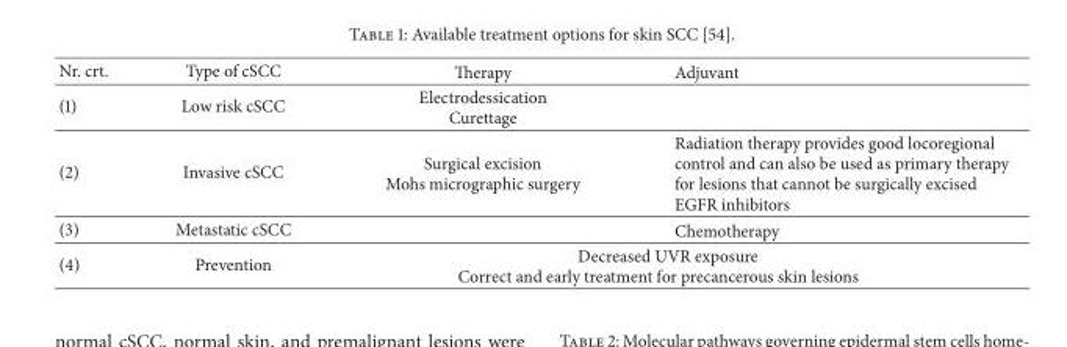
<table><thead><tr><td>Nr. crt.</td><td>Type of cSCC</td><td>Therapy</td><td>Adjuvant</td></tr></thead><tbody><tr><td>(1)</td><td>Low risk cSCC</td><td>Electrodessication Curettage</td><td></td></tr><tr><td>(2)</td><td>Invasive cSCC</td><td>Surgical excision Mohs micrographic surgery</td><td>Radiation therapy provides good locoregional control and can also be used as primary therapy for lesions that cannot be surgically excised EGFR inhibitors</td></tr><tr><td>(3)</td><td>Metastatic cSCC</td><td></td><td>Chemotherapy</td></tr><tr><td>(4)</td><td>Prevention</td><td colspan="2">Decreased UVR exposure Correct and early treatment for precancerous skin lesions</td></tr></tbody></table>